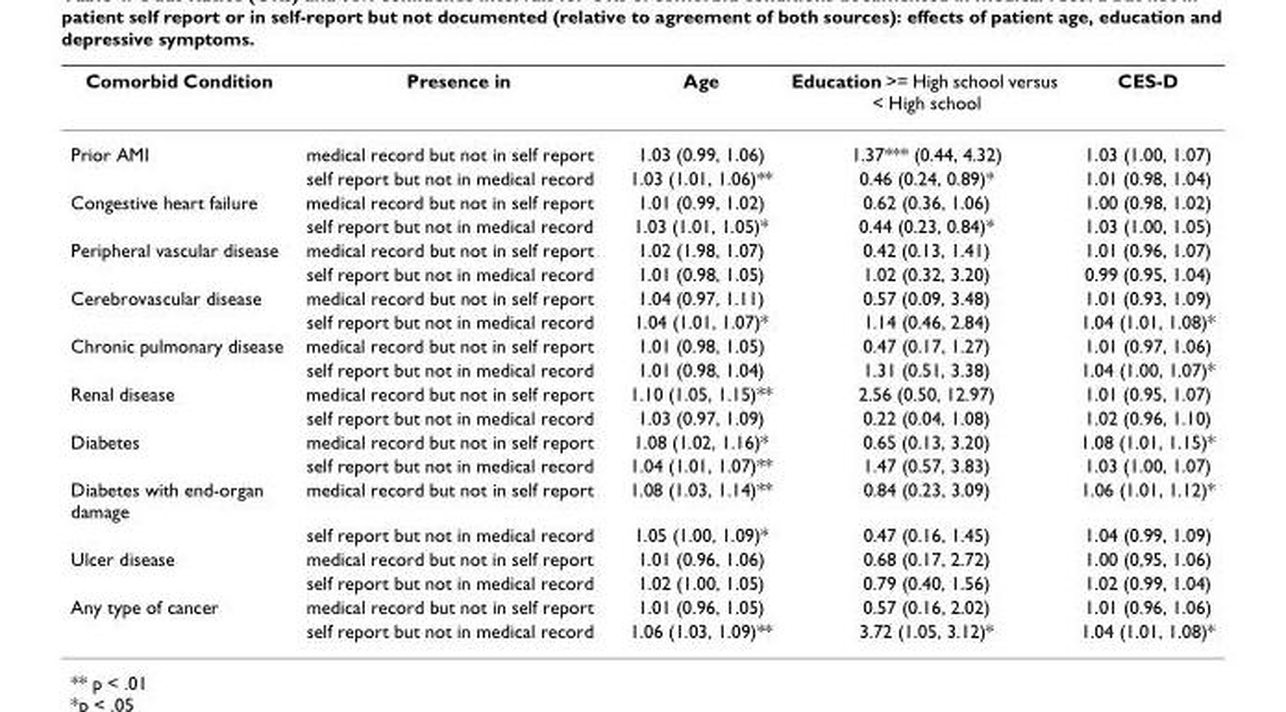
<table><thead><tr><td>Comorbid Condition</td><td>Presence in</td><td>Age</td><td>Education &gt;= High school versus &lt; High school</td><td>CES-D</td></tr></thead><tbody><tr><td rowspan="2">Prior AMI</td><td>medical record but not in self report</td><td>1.03 (0.99, 1.06)</td><td>1.37*** (0.44, 4.32)</td><td>1.03 (1.00, 1.07)</td></tr><tr><td>self report but not in medical record</td><td>1.03 (1.01, 1.06)**</td><td>0.46 (0.24, 0.89)*</td><td>1.01 (0.98, 1.04)</td></tr><tr><td rowspan="2">Congestive heart failure</td><td>medical record but not in self report</td><td>1.01 (0.99, 1.02)</td><td>0.62 (0.36, 1.06)</td><td>1.00 (0.98, 1.02)</td></tr><tr><td>self report but not in medical record</td><td>1.03 (1.01, 1.05)*</td><td>0.44 (0.23, 0.84)*</td><td>1.03 (1.00, 1.05)</td></tr><tr><td rowspan="2">Peripheral vascular disease</td><td>medical record but not in self report</td><td>1.02 (1.98, 1.07)</td><td>0.42 (0.13, 1.41)</td><td>1.01 (0.96, 1.07)</td></tr><tr><td>self report but not in medical record</td><td>1.01 (0.98, 1.05)</td><td>1.02 (0.32, 3.20)</td><td>0.99 (0.95, 1.04)</td></tr><tr><td rowspan="2">Cerebrovascular disease</td><td>medical record but not in self report</td><td>1.04 (0.97, 1.11)</td><td>0.57 (0.09, 3.48)</td><td>1.01 (0.93, 1.09)</td></tr><tr><td>self report but not in medical record</td><td>1.04 (1.01, 1.07)*</td><td>1.14 (0.46, 2.84)</td><td>1.04 (1.01, 1.08)*</td></tr><tr><td rowspan="2">Chronic pulmonary disease</td><td>medical record but not in self report</td><td>1.01 (0.98, 1.05)</td><td>0.47 (0.17, 1.27)</td><td>1.01 (0.97, 1.06)</td></tr><tr><td>self report but not in medical record</td><td>1.01 (0.98, 1.04)</td><td>1.31 (0.51, 3.38)</td><td>1.04 (1.00, 1.07)*</td></tr><tr><td rowspan="2">Renal disease</td><td>medical record but not in self report</td><td>1.10 (1.05, 1.15)**</td><td>2.56 (0.50, 12.97)</td><td>1.01 (0.95, 1.07)</td></tr><tr><td>self report but not in medical record</td><td>1.03 (0.97, 1.09)</td><td>0.22 (0.04, 1.08)</td><td>1.02 (0.96, 1.10)</td></tr><tr><td rowspan="2">Diabetes</td><td>medical record but not in self report</td><td>1.08 (1.02, 1.16)*</td><td>0.65 (0.13, 3.20)</td><td>1.08 (1.01, 1.15)*</td></tr><tr><td>self report but not in medical record</td><td>1.04 (1.01, 1.07)**</td><td>1.47 (0.57, 3.83)</td><td>1.03 (1.00, 1.07)</td></tr><tr><td rowspan="2">Diabetes with end-organ damage</td><td>medical record but not in self report</td><td>1.08 (1.03, 1.14)**</td><td>0.84 (0.23, 3.09)</td><td>1.06 (1.01, 1.12)*</td></tr><tr><td>self report but not in medical record</td><td>1.05 (1.00, 1.09)*</td><td>0.47 (0.16, 1.45)</td><td>1.04 (0.99, 1.09)</td></tr><tr><td rowspan="2">Ulcer disease</td><td>medical record but not in self report</td><td>1.01 (0.96, 1.06)</td><td>0.68 (0.17, 2.72)</td><td>1.00 (0,95, 1.06)</td></tr><tr><td>self report but not in medical record</td><td>1.02 (1.00, 1.05)</td><td>0.79 (0.40, 1.56)</td><td>1.02 (0.99, 1.04)</td></tr><tr><td rowspan="2">Any type of cancer</td><td>medical record but not in self report</td><td>1.01 (0.96, 1.05)</td><td>0.57 (0.16, 2.02)</td><td>1.01 (0.96, 1.06)</td></tr><tr><td>self report but not in medical record</td><td>1.06 (1.03, 1.09)**</td><td>3.72 (1.05, 3.12)*</td><td>1.04 (1.01, 1.08)*</td></tr></tbody></table>